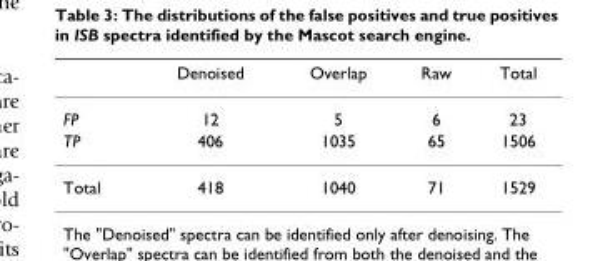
<table><thead><tr><td></td><td>Denoised</td><td>Overlap</td><td>Raw</td><td>Total</td></tr></thead><tbody><tr><td>FP</td><td>12</td><td>5</td><td>6</td><td>23</td></tr><tr><td>TP</td><td>406</td><td>1035</td><td>65</td><td>1506</td></tr><tr><td>Total</td><td>418</td><td>1040</td><td>71</td><td>1529</td></tr></tbody></table>